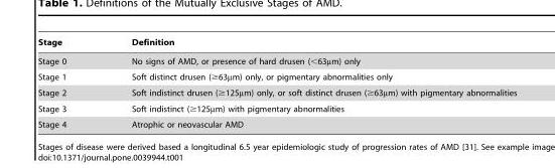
<table><thead><tr><td>Stage</td><td>Definition</td></tr></thead><tbody><tr><td>Stage 0</td><td>No signs of AMD, or presence of hard drusen (&lt;63µm) only</td></tr><tr><td>Stage 1</td><td>Soft distinct drusen (≥63µm) only, or pigmentary abnormalities only</td></tr><tr><td>Stage 2</td><td>Soft indistinct drusen (≥125µm) only, or soft distinct drusen (≥63µm) with pigmentary abnormalities</td></tr><tr><td>Stage 3</td><td>Soft indistinct (≥125µm) with pigmentary abnormalities</td></tr><tr><td>Stage 4</td><td>Atrophic or neovascular AMD</td></tr></tbody></table>